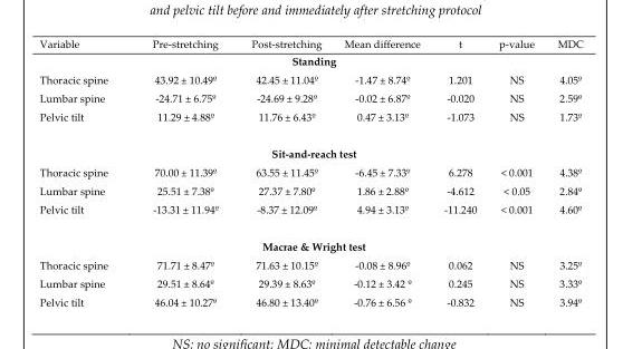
<table><thead><tr><td>Variable</td><td>Pre-stretching</td><td>Post-stretching</td><td>Mean difference</td><td>t</td><td>p-value</td><td>MDC</td></tr></thead><tbody><tr><td colspan="7">Standing</td></tr><tr><td>Thoracic spine</td><td>43.92 ± 10.49º</td><td>42.45 ± 11.04º</td><td>-1.47 ± 8.74º</td><td>1.201</td><td>NS</td><td>4.05º</td></tr><tr><td>Lumbar spine</td><td>-24.71 ± 6.75º</td><td>-24.69 ± 9.28º</td><td>-0.02 ± 6.87º</td><td>-0.020</td><td>NS</td><td>2.59º</td></tr><tr><td>Pelvic tilt</td><td>11.29 ± 4.88º</td><td>11.76 ± 6.43º</td><td>0.47 ± 3.13º</td><td>-1.073</td><td>NS</td><td>1.73º</td></tr><tr><td colspan="7">Sit-and-reach test</td></tr><tr><td>Thoracic spine</td><td>70.00 ± 11.39º</td><td>63.55 ± 11.45º</td><td>-6.45 ± 7.33º</td><td>6.278</td><td>&lt; 0.001</td><td>4.38º</td></tr><tr><td>Lumbar spine</td><td>25.51 ± 7.38º</td><td>27.37 ± 7.80º</td><td>1.86 ± 2.88º</td><td>-4.612</td><td>&lt; 0.05</td><td>2.84º</td></tr><tr><td>Pelvic tilt</td><td>-13.31 ± 11.94º</td><td>-8.37 ± 12.09º</td><td>4.94 ± 3.13º</td><td>-11.240</td><td>&lt; 0.001</td><td>4.60º</td></tr><tr><td colspan="7">Macrae &amp; Wright test</td></tr><tr><td>Thoracic spine</td><td>71.71 ± 8.47º</td><td>71.63 ± 10.15º</td><td>-0.08 ± 8.96º</td><td>0.062</td><td>NS</td><td>3.25º</td></tr><tr><td>Lumbar spine</td><td>29.51 ± 8.64º</td><td>29.39 ± 8.63º</td><td>-0.12 ± 3.42 º</td><td>0.245</td><td>NS</td><td>3.33º</td></tr><tr><td>Pelvic tilt</td><td>46.04 ± 10.27º</td><td>46.80 ± 13.40º</td><td>-0.76 ± 6.56 º</td><td>-0.832</td><td>NS</td><td>3.94º</td></tr></tbody></table>